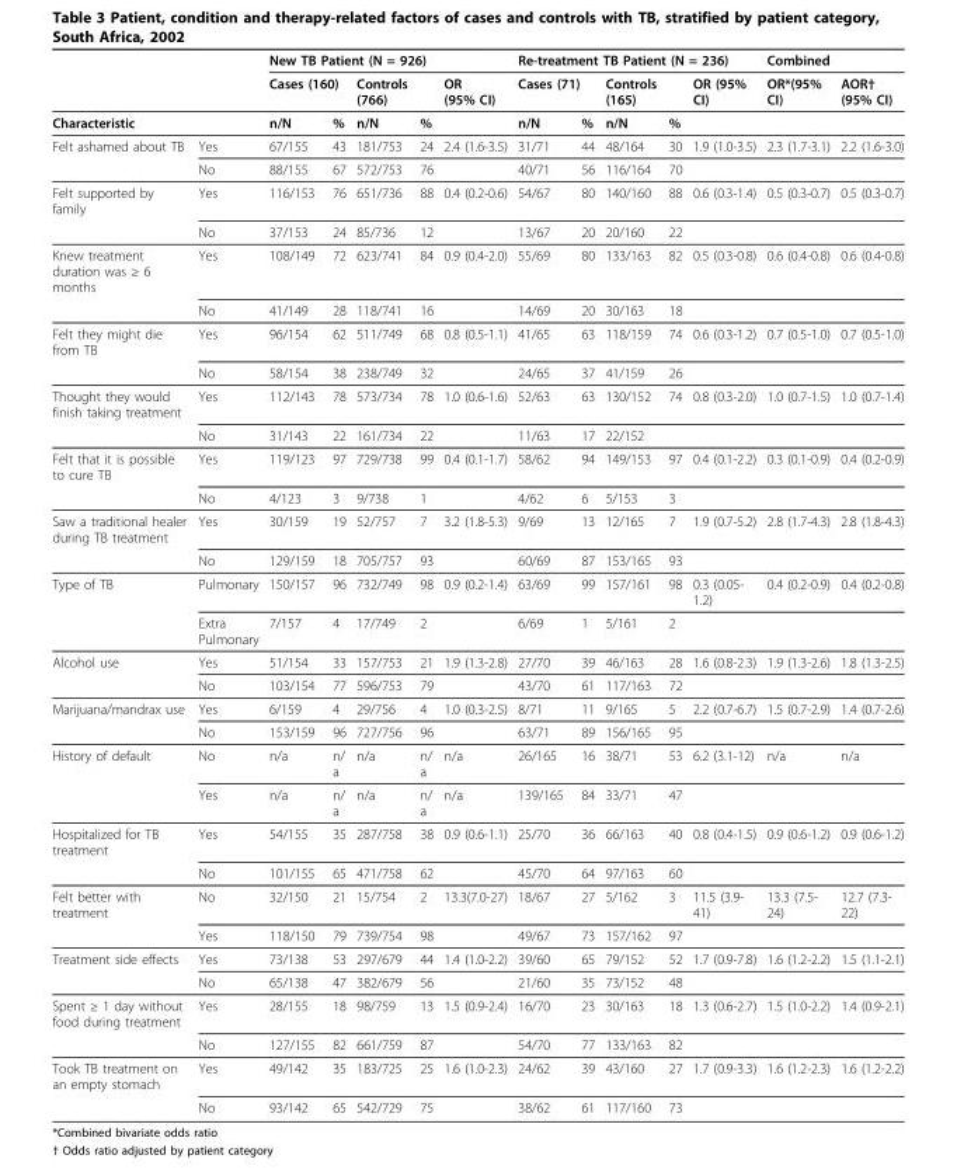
<table><thead><tr><td rowspan="2"></td><td rowspan="2"></td><td colspan="5">New TB Patient (N = 926)</td><td colspan="5">Re-treatment TB Patient (N = 236)</td><td colspan="2">Combined</td></tr><tr><td colspan="2">Cases (160)</td><td colspan="2">Controls (766)</td><td rowspan="2">OR (95% CI)</td><td colspan="2">Cases (71)</td><td colspan="2">Controls (165)</td><td rowspan="2">OR (95% CI)</td><td rowspan="2">OR*(95% CI)</td><td rowspan="2">AOR† (95% CI)</td></tr><tr><td colspan="2">Characteristic</td><td>n/N</td><td>%</td><td>n/N</td><td>%</td><td>n/N</td><td>%</td><td>n/N</td><td>%</td></tr></thead><tbody><tr><td rowspan="2">Felt ashamed about TB</td><td>Yes</td><td>67/155</td><td>43</td><td>181/753</td><td>24</td><td>2.4 (1.6-3.5)</td><td>31/71</td><td>44</td><td>48/164</td><td>30</td><td>1.9 (1.0-3.5)</td><td>2.3 (1.7-3.1)</td><td>2.2 (1.6-3.0)</td></tr><tr><td>No</td><td>88/155</td><td>67</td><td>572/753</td><td>76</td><td></td><td>40/71</td><td>56</td><td>116/164</td><td>70</td><td></td><td></td><td></td></tr><tr><td rowspan="2">Felt supported by family</td><td>Yes</td><td>116/153</td><td>76</td><td>651/736</td><td>88</td><td>0.4 (0.2-0.6)</td><td>54/67</td><td>80</td><td>140/160</td><td>88</td><td>0.6 (0.3-1.4)</td><td>0.5 (0.3-0.7)</td><td>0.5 (0.3-0.7)</td></tr><tr><td>No</td><td>37/153</td><td>24</td><td>85/736</td><td>12</td><td></td><td>13/67</td><td>20</td><td>20/160</td><td>22</td><td></td><td></td><td></td></tr><tr><td rowspan="2">Knew treatment duration was ≥ 6 months</td><td>Yes</td><td>108/149</td><td>72</td><td>623/741</td><td>84</td><td>0.9 (0.4-2.0)</td><td>55/69</td><td>80</td><td>133/163</td><td>82</td><td>0.5 (0.3-0.8)</td><td>0.6 (0.4-0.8)</td><td>0.6 (0.4-0.8)</td></tr><tr><td>No</td><td>41/149</td><td>28</td><td>118/741</td><td>16</td><td></td><td>14/69</td><td>20</td><td>30/163</td><td>18</td><td></td><td></td><td></td></tr><tr><td rowspan="2">Felt they might die from TB</td><td>Yes</td><td>96/154</td><td>62</td><td>511/749</td><td>68</td><td>0.8 (0.5-1.1)</td><td>41/65</td><td>63</td><td>118/159</td><td>74</td><td>0.6 (0.3-1.2)</td><td>0.7 (0.5-1.0)</td><td>0.7 (0.5-1.0)</td></tr><tr><td>No</td><td>58/154</td><td>38</td><td>238/749</td><td>32</td><td></td><td>24/65</td><td>37</td><td>41/159</td><td>26</td><td></td><td></td><td></td></tr><tr><td rowspan="2">Thought they would finish taking treatment</td><td>Yes</td><td>112/143</td><td>78</td><td>573/734</td><td>78</td><td>1.0 (0.6-1.6)</td><td>52/63</td><td>63</td><td>130/152</td><td>74</td><td>0.8 (0.3-2.0)</td><td>1.0 (0.7-1.5)</td><td>1.0 (0.7-1.4)</td></tr><tr><td>No</td><td>31/143</td><td>22</td><td>161/734</td><td>22</td><td></td><td>11/63</td><td>17</td><td>22/152</td><td></td><td></td><td></td><td></td></tr><tr><td rowspan="2">Felt that it is possible to cure TB</td><td>Yes</td><td>119/123</td><td>97</td><td>729/738</td><td>99</td><td>0.4 (0.1-1.7)</td><td>58/62</td><td>94</td><td>149/153</td><td>97</td><td>0.4 (0.1-2.2)</td><td>0.3 (0.1-0.9)</td><td>0.4 (0.2-0.9)</td></tr><tr><td>No</td><td>4/123</td><td>3</td><td>9/738</td><td>1</td><td></td><td>4/62</td><td>6</td><td>5/153</td><td>3</td><td></td><td></td><td></td></tr><tr><td rowspan="2">Saw a traditional healer during TB treatment</td><td>Yes</td><td>30/159</td><td>19</td><td>52/757</td><td>7</td><td>3.2 (1.8-5.3)</td><td>9/69</td><td>13</td><td>12/165</td><td>7</td><td>1.9 (0.7-5.2)</td><td>2.8 (1.7-4.3)</td><td>2.8 (1.8-4.3)</td></tr><tr><td>No</td><td>129/159</td><td>18</td><td>705/757</td><td>93</td><td></td><td>60/69</td><td>87</td><td>153/165</td><td>93</td><td></td><td></td><td></td></tr><tr><td rowspan="2">Type of TB</td><td>Pulmonary</td><td>150/157</td><td>96</td><td>732/749</td><td>98</td><td>0.9 (0.2-1.4)</td><td>63/69</td><td>99</td><td>157/161</td><td>98</td><td>0.3 (0.05- 1.2)</td><td>0.4 (0.2-0.9)</td><td>0.4 (0.2-0.8)</td></tr><tr><td>Extra Pulmonary</td><td>7/157</td><td>4</td><td>17/749</td><td>2</td><td></td><td>6/69</td><td>1</td><td>5/161</td><td>2</td><td></td><td></td><td></td></tr><tr><td rowspan="2">Alcohol use</td><td>Yes</td><td>51/154</td><td>33</td><td>157/753</td><td>21</td><td>1.9 (1.3-2.8)</td><td>27/70</td><td>39</td><td>46/163</td><td>28</td><td>1.6 (0.8-2.3)</td><td>1.9 (1.3-2.6)</td><td>1.8 (1.3-2.5)</td></tr><tr><td>No</td><td>103/154</td><td>77</td><td>596/753</td><td>79</td><td></td><td>43/70</td><td>61</td><td>117/163</td><td>72</td><td></td><td></td><td></td></tr><tr><td rowspan="2">Marijuana/mandrax use</td><td>Yes</td><td>6/159</td><td>4</td><td>29/756</td><td>4</td><td>1.0 (0.3-2.5)</td><td>8/71</td><td>11</td><td>9/165</td><td>5</td><td>2.2 (0.7-6.7)</td><td>1.5 (0.7-2.9)</td><td>1.4 (0.7-2.6)</td></tr><tr><td>No</td><td>153/159</td><td>96</td><td>727/756</td><td>96</td><td></td><td>63/71</td><td>89</td><td>156/165</td><td>95</td><td></td><td></td><td></td></tr><tr><td rowspan="2">History of default</td><td>No</td><td>n/a</td><td>n/ a</td><td>n/a</td><td>n/ a</td><td>n/a</td><td>26/165</td><td>16</td><td>38/71</td><td>53</td><td>6.2 (3.1-12)</td><td>n/a</td><td>n/a</td></tr><tr><td>Yes</td><td>n/a</td><td>n/ a</td><td>n/a</td><td>n/ a</td><td>n/a</td><td>139/165</td><td>84</td><td>33/71</td><td>47</td><td></td><td></td><td></td></tr><tr><td rowspan="2">Hospitalized for TB treatment</td><td>Yes</td><td>54/155</td><td>35</td><td>287/758</td><td>38</td><td>0.9 (0.6-1.1)</td><td>25/70</td><td>36</td><td>66/163</td><td>40</td><td>0.8 (0.4-1.5)</td><td>0.9 (0.6-1.2)</td><td>0.9 (0.6-1.2)</td></tr><tr><td>No</td><td>101/155</td><td>65</td><td>471/758</td><td>62</td><td></td><td>45/70</td><td>64</td><td>97/163</td><td>60</td><td></td><td></td><td></td></tr><tr><td rowspan="2">Felt better with treatment</td><td>No</td><td>32/150</td><td>21</td><td>15/754</td><td>2</td><td>13.3(7.0-27)</td><td>18/67</td><td>27</td><td>5/162</td><td>3</td><td>11.5 (3.9- 41)</td><td>13.3 (7.5- 24)</td><td>12.7 (7.3- 22)</td></tr><tr><td>Yes</td><td>118/150</td><td>79</td><td>739/754</td><td>98</td><td></td><td>49/67</td><td>73</td><td>157/162</td><td>97</td><td></td><td></td><td></td></tr><tr><td rowspan="2">Treatment side effects</td><td>Yes</td><td>73/138</td><td>53</td><td>297/679</td><td>44</td><td>1.4 (1.0-2.2)</td><td>39/60</td><td>65</td><td>79/152</td><td>52</td><td>1.7 (0.9-7.8)</td><td>1.6 (1.2-2.2)</td><td>1.5 (1.1-2.1)</td></tr><tr><td>No</td><td>65/138</td><td>47</td><td>382/679</td><td>56</td><td></td><td>21/60</td><td>35</td><td>73/152</td><td>48</td><td></td><td></td><td></td></tr><tr><td rowspan="2">Spent ≥ 1 day without food during treatment</td><td>Yes</td><td>28/155</td><td>18</td><td>98/759</td><td>13</td><td>1.5 (0.9-2.4)</td><td>16/70</td><td>23</td><td>30/163</td><td>18</td><td>1.3 (0.6-2.7)</td><td>1.5 (1.0-2.2)</td><td>1.4 (0.9-2.1)</td></tr><tr><td>No</td><td>127/155</td><td>82</td><td>661/759</td><td>87</td><td></td><td>54/70</td><td>77</td><td>133/163</td><td>82</td><td></td><td></td><td></td></tr><tr><td rowspan="2">Took TB treatment on an empty stomach</td><td>Yes</td><td>49/142</td><td>35</td><td>183/725</td><td>25</td><td>1.6 (1.0-2.3)</td><td>24/62</td><td>39</td><td>43/160</td><td>27</td><td>1.7 (0.9-3.3)</td><td>1.6 (1.2-2.3)</td><td>1.6 (1.2-2.2)</td></tr><tr><td>No</td><td>93/142</td><td>65</td><td>542/729</td><td>75</td><td></td><td>38/62</td><td>61</td><td>117/160</td><td>73</td><td></td><td></td><td></td></tr></tbody></table>